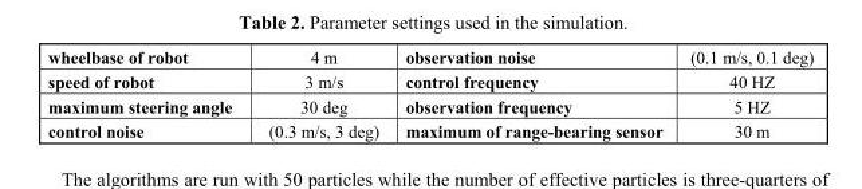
<table><tbody><tr><td>wheelbase of robot</td><td>4 m</td><td>observation noise</td><td>(0.1 m/s, 0.1 deg)</td></tr><tr><td>speed of robot</td><td>3 m/s</td><td>control frequency</td><td>40 HZ</td></tr><tr><td>maximum steering angle</td><td>30 deg</td><td>observation frequency</td><td>5 HZ</td></tr><tr><td>control noise</td><td>(0.3 m/s, 3 deg)</td><td>maximum of range-bearing sensor</td><td>30 m</td></tr></tbody></table>